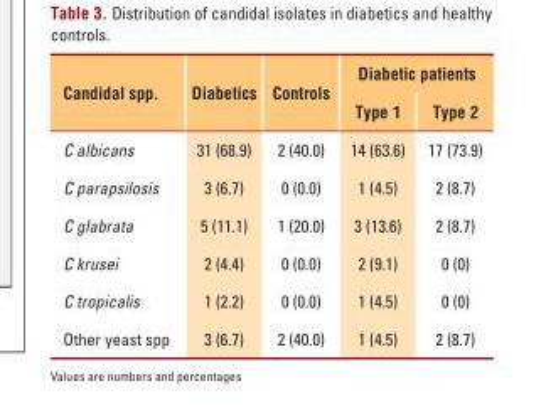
<table><thead><tr><td rowspan="2">Candidal spp.</td><td rowspan="2">Diabetics</td><td rowspan="2">Controls</td><td colspan="2">Diabetic patients</td></tr><tr><td>Type 1</td><td>Type 2</td></tr></thead><tbody><tr><td>C albicans</td><td>31 (68.9)</td><td>2 (40.0)</td><td>14 (63.6)</td><td>17 (73.9)</td></tr><tr><td>C parapsilosis</td><td>3 (6.7)</td><td>0 (0.0)</td><td>1 (4.5)</td><td>2 (8.7)</td></tr><tr><td>C glabrata</td><td>5 (11.1)</td><td>1 (20.0)</td><td>3 (13.6)</td><td>2 (8.7)</td></tr><tr><td>C krusei</td><td>2 (4.4)</td><td>0 (0.0)</td><td>2 (9.1)</td><td>0 (0)</td></tr><tr><td>C tropicalis</td><td>1 (2.2)</td><td>0 (0.0)</td><td>1 (4.5)</td><td>0 (0)</td></tr><tr><td>Other yeast spp</td><td>3 (6.7)</td><td>2 (40.0)</td><td>1 (4.5)</td><td>2 (8.7)</td></tr></tbody></table>